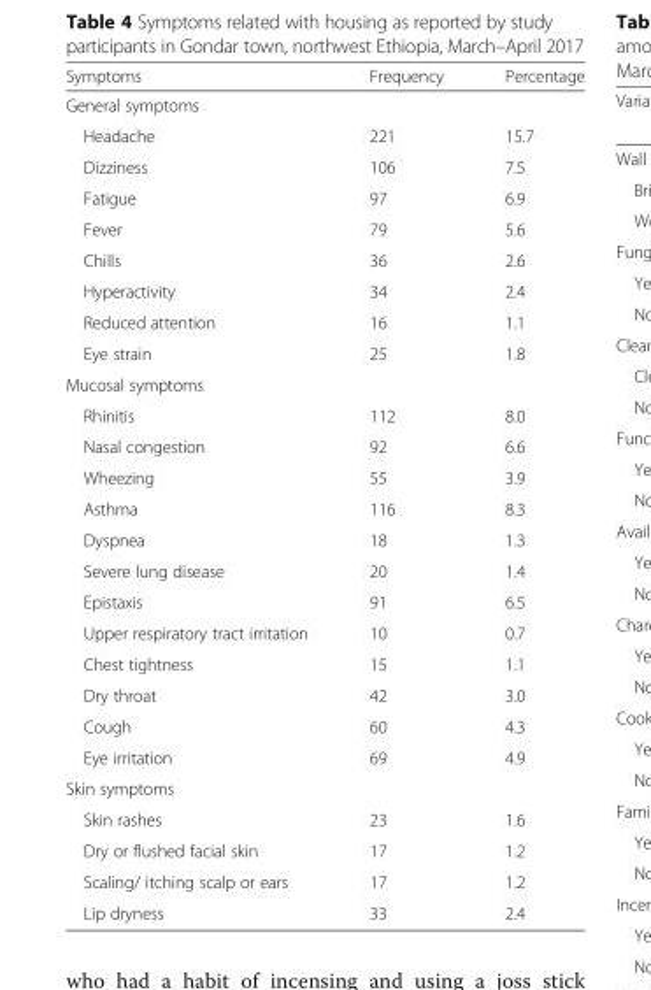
<table><thead><tr><td>Symptoms</td><td>Frequency</td><td>Percentage</td></tr></thead><tbody><tr><td colspan="3">General symptoms</td></tr><tr><td>Headache</td><td>221</td><td>15.7</td></tr><tr><td>Dizziness</td><td>106</td><td>7.5</td></tr><tr><td>Fatigue</td><td>97</td><td>6.9</td></tr><tr><td>Fever</td><td>79</td><td>5.6</td></tr><tr><td>Chills</td><td>36</td><td>2.6</td></tr><tr><td>Hyperactivity</td><td>34</td><td>2.4</td></tr><tr><td>Reduced attention</td><td>16</td><td>1.1</td></tr><tr><td>Eye strain</td><td>25</td><td>1.8</td></tr><tr><td colspan="3">Mucosal symptoms</td></tr><tr><td>Rhinitis</td><td>112</td><td>8.0</td></tr><tr><td>Nasal congestion</td><td>92</td><td>6.6</td></tr><tr><td>Wheezing</td><td>55</td><td>3.9</td></tr><tr><td>Asthma</td><td>116</td><td>8.3</td></tr><tr><td>Dyspnea</td><td>18</td><td>1.3</td></tr><tr><td>Severe lung disease</td><td>20</td><td>1.4</td></tr><tr><td>Epistaxis</td><td>91</td><td>6.5</td></tr><tr><td>Upper respiratory tract irritation</td><td>10</td><td>0.7</td></tr><tr><td>Chest tightness</td><td>15</td><td>1.1</td></tr><tr><td>Dry throat</td><td>42</td><td>3.0</td></tr><tr><td>Cough</td><td>60</td><td>4.3</td></tr><tr><td>Eye irritation</td><td>69</td><td>4.9</td></tr><tr><td colspan="3">Skin symptoms</td></tr><tr><td>Skin rashes</td><td>23</td><td>1.6</td></tr><tr><td>Dry or flushed facial skin</td><td>17</td><td>1.2</td></tr><tr><td>Scaling/ itching scalp or ears</td><td>17</td><td>1.2</td></tr><tr><td>Lip dryness</td><td>33</td><td>2.4</td></tr></tbody></table>